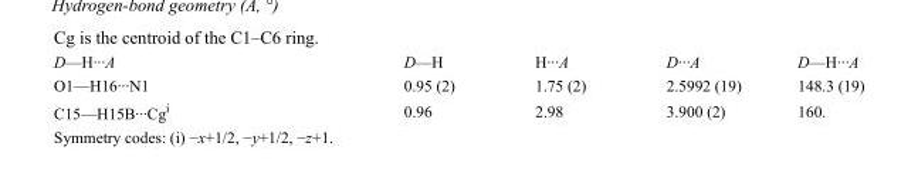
<table><tbody><tr><td>D—H···A</td><td>D—H</td><td>H···A</td><td>D···A</td><td>D—H···A</td></tr><tr><td>O1—H16···N1</td><td>0.95 (2)</td><td>1.75 (2)</td><td>2.5992 (19)</td><td>148.3 (19)</td></tr><tr><td>C15—H15B···Cg<sup>i</sup></td><td>0.96</td><td>2.98</td><td>3.900 (2)</td><td>160.</td></tr></tbody></table>